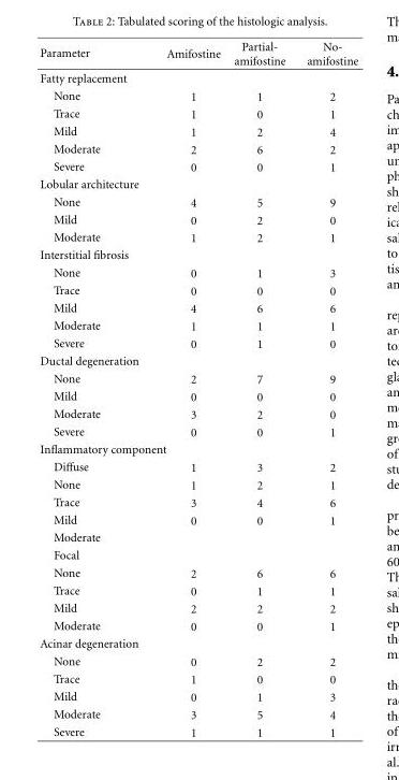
<table><thead><tr><td>Parameter</td><td>Amifostine</td><td>Partial- amifostine</td><td>No- amifostine</td></tr></thead><tbody><tr><td colspan="4">Fatty replacement</td></tr><tr><td>None</td><td>1</td><td>1</td><td>2</td></tr><tr><td>Trace</td><td>1</td><td>0</td><td>1</td></tr><tr><td>Mild</td><td>1</td><td>2</td><td>4</td></tr><tr><td>Moderate</td><td>2</td><td>6</td><td>2</td></tr><tr><td>Severe</td><td>0</td><td>0</td><td>1</td></tr><tr><td colspan="4">Lobular architecture</td></tr><tr><td>None</td><td>4</td><td>5</td><td>9</td></tr><tr><td>Mild</td><td>0</td><td>2</td><td>0</td></tr><tr><td>Moderate</td><td>1</td><td>2</td><td>1</td></tr><tr><td colspan="4">Interstitial fibrosis</td></tr><tr><td>None</td><td>0</td><td>1</td><td>3</td></tr><tr><td>Trace</td><td>0</td><td>0</td><td>0</td></tr><tr><td>Mild</td><td>4</td><td>6</td><td>6</td></tr><tr><td>Moderate</td><td>1</td><td>1</td><td>1</td></tr><tr><td>Severe</td><td>0</td><td>1</td><td>0</td></tr><tr><td colspan="4">Ductal degeneration</td></tr><tr><td>None</td><td>2</td><td>7</td><td>9</td></tr><tr><td>Mild</td><td>0</td><td>0</td><td>0</td></tr><tr><td>Moderate</td><td>3</td><td>2</td><td>0</td></tr><tr><td>Severe</td><td>0</td><td>0</td><td>1</td></tr><tr><td colspan="4">Inflammatory component</td></tr><tr><td>Diffuse</td><td>1</td><td>3</td><td>2</td></tr><tr><td>None</td><td>1</td><td>2</td><td>1</td></tr><tr><td>Trace</td><td>3</td><td>4</td><td>6</td></tr><tr><td>Mild</td><td>0</td><td>0</td><td>1</td></tr><tr><td colspan="4">Moderate</td></tr><tr><td colspan="4">Focal</td></tr><tr><td>None</td><td>2</td><td>6</td><td>6</td></tr><tr><td>Trace</td><td>0</td><td>1</td><td>1</td></tr><tr><td>Mild</td><td>2</td><td>2</td><td>2</td></tr><tr><td>Moderate</td><td>0</td><td>0</td><td>1</td></tr><tr><td colspan="4">Acinar degeneration</td></tr><tr><td>None</td><td>0</td><td>2</td><td>2</td></tr><tr><td>Trace</td><td>1</td><td>0</td><td>0</td></tr><tr><td>Mild</td><td>0</td><td>1</td><td>3</td></tr><tr><td>Moderate</td><td>3</td><td>5</td><td>4</td></tr><tr><td>Severe</td><td>1</td><td>1</td><td>1</td></tr></tbody></table>